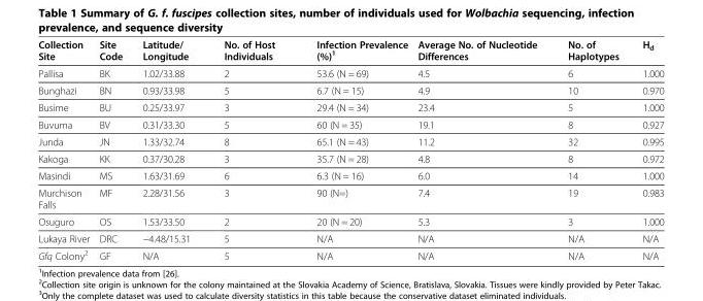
<table><thead><tr><td>Collection Site</td><td>Site Code</td><td>Latitude/ Longitude</td><td>No. of Host Individuals</td><td>Infection Prevalence (%)<sup>1</sup></td><td>Average No. of Nucleotide Differences</td><td>No. of Haplotypes</td><td>H<sub>d</sub></td></tr></thead><tbody><tr><td>Pallisa</td><td>BK</td><td>1.02/33.88</td><td>2</td><td>53.6 (N = 69)</td><td>4.5</td><td>6</td><td>1.000</td></tr><tr><td>Bunghazi</td><td>BN</td><td>0.93/33.98</td><td>5</td><td>6.7 (N = 15)</td><td>4.9</td><td>10</td><td>0.970</td></tr><tr><td>Busime</td><td>BU</td><td>0.25/33.97</td><td>3</td><td>29.4 (N = 34)</td><td>23.4</td><td>5</td><td>1.000</td></tr><tr><td>Buvuma</td><td>BV</td><td>0.31/33.30</td><td>5</td><td>60 (N = 35)</td><td>19.1</td><td>8</td><td>0.927</td></tr><tr><td>Junda</td><td>JN</td><td>1.33/32.74</td><td>8</td><td>65.1 (N = 43)</td><td>11.2</td><td>32</td><td>0.995</td></tr><tr><td>Kakoga</td><td>KK</td><td>0.37/30.28</td><td>3</td><td>35.7 (N = 28)</td><td>4.8</td><td>8</td><td>0.972</td></tr><tr><td>Masindi</td><td>MS</td><td>1.63/31.69</td><td>6</td><td>6.3 (N = 16)</td><td>6.0</td><td>14</td><td>1.000</td></tr><tr><td>Murchison Falls</td><td>MF</td><td>2.28/31.56</td><td>3</td><td>90 (N=)</td><td>7.4</td><td>19</td><td>0.983</td></tr><tr><td>Osuguro</td><td>OS</td><td>1.53/33.50</td><td>2</td><td>20 (N = 20)</td><td>5.3</td><td>3</td><td>1.000</td></tr><tr><td>Lukaya River</td><td>DRC</td><td>−4.48/15.31</td><td>5</td><td>N/A</td><td>N/A</td><td>N/A</td><td>N/A</td></tr><tr><td>Gfq Colony<sup>2</sup></td><td>GF</td><td>N/A</td><td>5</td><td>N/A</td><td>N/A</td><td>N/A</td><td>N/A</td></tr></tbody></table>